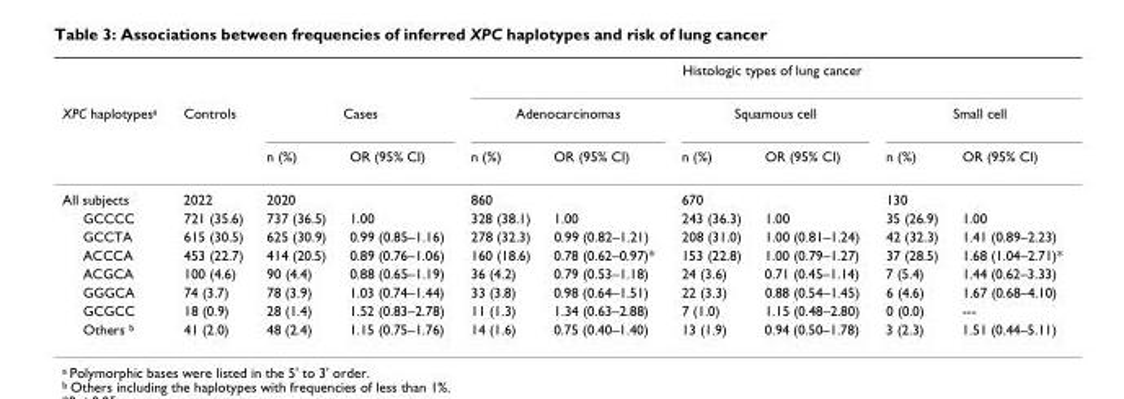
<table><thead><tr><td rowspan="3">XPC haplotypesa</td><td rowspan="3">Controls</td><td></td><td></td><td colspan="6">Histologic types of lung cancer</td></tr><tr><td colspan="2">Cases</td><td colspan="2">Adenocarcinomas</td><td colspan="2">Squamous cell</td><td colspan="2">Small cell</td></tr><tr><td>n (%)</td><td>OR (95% CI)</td><td>n (%)</td><td>OR (95% CI)</td><td>n (%)</td><td>OR (95% CI)</td><td>n (%)</td><td>OR (95% CI)</td></tr></thead><tbody><tr><td>All subjects</td><td>2022</td><td>2020</td><td></td><td>860</td><td></td><td>670</td><td></td><td>130</td><td></td></tr><tr><td>GCCCC</td><td>721 (35.6)</td><td>737 (36.5)</td><td>1.00</td><td>328 (38.1)</td><td>1.00</td><td>243 (36.3)</td><td>1.00</td><td>35 (26.9)</td><td>1.00</td></tr><tr><td>GCCTA</td><td>615 (30.5)</td><td>625 (30.9)</td><td>0.99 (0.85–1.16)</td><td>278 (32.3)</td><td>0.99 (0.82–1.21)</td><td>208 (31.0)</td><td>1.00 (0.81–1.24)</td><td>42 (32.3)</td><td>1.41 (0.89–2.23)</td></tr><tr><td>ACCCA</td><td>453 (22.7)</td><td>414 (20.5)</td><td>0.89 (0.76–1.06)</td><td>160 (18.6)</td><td>0.78 (0.62–0.97)*</td><td>153 (22.8)</td><td>1.00 (0.79–1.27)</td><td>37 (28.5)</td><td>1.68 (1.04–2.71)*</td></tr><tr><td>ACGCA</td><td>100 (4.6)</td><td>90 (4.4)</td><td>0.88 (0.65–1.19)</td><td>36 (4.2)</td><td>0.79 (0.53–1.18)</td><td>24 (3.6)</td><td>0.71 (0.45–1.14)</td><td>7 (5.4)</td><td>1.44 (0.62–3.33)</td></tr><tr><td>GGGCA</td><td>74 (3.7)</td><td>78 (3.9)</td><td>1.03 (0.74–1.44)</td><td>33 (3.8)</td><td>0.98 (0.64–1.51)</td><td>22 (3.3)</td><td>0.88 (0.54–1.45)</td><td>6 (4.6)</td><td>1.67 (0.68–4.10)</td></tr><tr><td>GCGCC</td><td>18 (0.9)</td><td>28 (1.4)</td><td>1.52 (0.83–2.78)</td><td>11 (1.3)</td><td>1.34 (0.63–2.88)</td><td>7 (1.0)</td><td>1.15 (0.48–2.80)</td><td>0 (0.0)</td><td>---</td></tr><tr><td>Others b</td><td>41 (2.0)</td><td>48 (2.4)</td><td>1.15 (0.75–1.76)</td><td>14 (1.6)</td><td>0.75 (0.40–1.40)</td><td>13 (1.9)</td><td>0.94 (0.50–1.78)</td><td>3 (2.3)</td><td>1.51 (0.44–5.11)</td></tr></tbody></table>